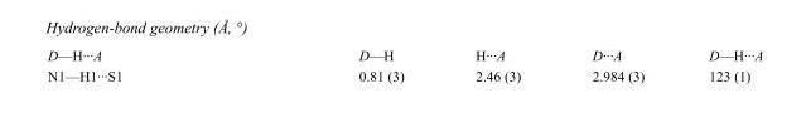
<table><tbody><tr><td>D—H···A</td><td>D—H</td><td>H···A</td><td>D···A</td><td>D—H···A</td></tr><tr><td>N1—H1···S1</td><td>0.81 (3)</td><td>2.46 (3)</td><td>2.984 (3)</td><td>123 (1)</td></tr></tbody></table>